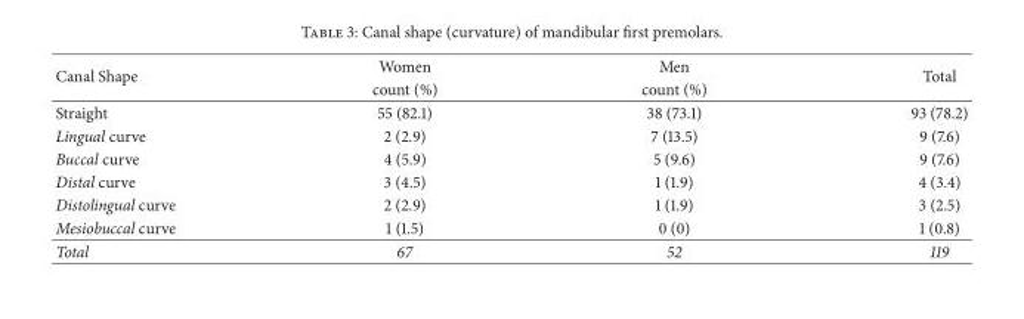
<table><thead><tr><td rowspan="2">Canal Shape</td><td rowspan="2">Women count (%)</td><td rowspan="2">Men count (%)</td><td rowspan="2">Total</td></tr><tr></tr></thead><tbody><tr><td>Straight</td><td>55 (82.1)</td><td>38 (73.1)</td><td>93 (78.2)</td></tr><tr><td>Lingual curve</td><td>2 (2.9)</td><td>7 (13.5)</td><td>9 (7.6)</td></tr><tr><td>Buccal curve</td><td>4 (5.9)</td><td>5 (9.6)</td><td>9 (7.6)</td></tr><tr><td>Distal curve</td><td>3 (4.5)</td><td>1 (1.9)</td><td>4 (3.4)</td></tr><tr><td>Distolingual curve</td><td>2 (2.9)</td><td>1 (1.9)</td><td>3 (2.5)</td></tr><tr><td>Mesiobuccal curve</td><td>1 (1.5)</td><td>0 (0)</td><td>1 (0.8)</td></tr><tr><td>Total</td><td>67</td><td>52</td><td>119</td></tr></tbody></table>